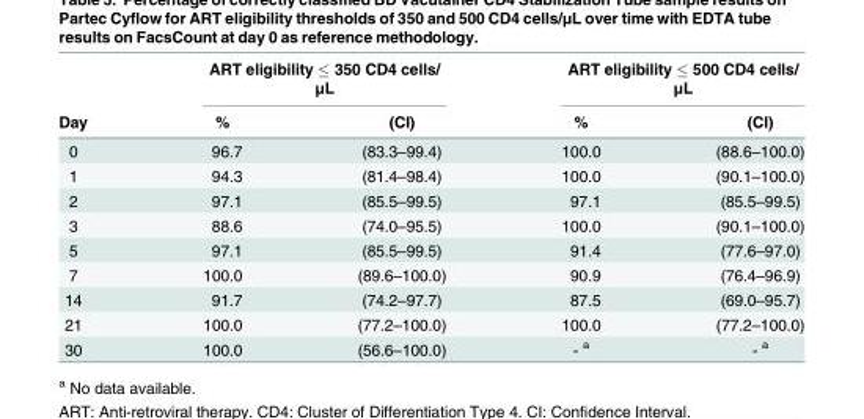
<table><thead><tr><td rowspan="2">Day</td><td colspan="2">ART eligibility ≤ 350 CD4 cells/ μL</td><td colspan="2">ART eligibility ≤ 500 CD4 cells/ μL</td></tr><tr><td>%</td><td>(CI)</td><td>%</td><td>(CI)</td></tr></thead><tbody><tr><td>0</td><td>96.7</td><td>(83.3–99.4)</td><td>100.0</td><td>(88.6–100.0)</td></tr><tr><td>1</td><td>94.3</td><td>(81.4–98.4)</td><td>100.0</td><td>(90.1–100.0)</td></tr><tr><td>2</td><td>97.1</td><td>(85.5–99.5)</td><td>97.1</td><td>(85.5–99.5)</td></tr><tr><td>3</td><td>88.6</td><td>(74.0–95.5)</td><td>100.0</td><td>(90.1–100.0)</td></tr><tr><td>5</td><td>97.1</td><td>(85.5–99.5)</td><td>91.4</td><td>(77.6–97.0)</td></tr><tr><td>7</td><td>100.0</td><td>(89.6–100.0)</td><td>90.9</td><td>(76.4–96.9)</td></tr><tr><td>14</td><td>91.7</td><td>(74.2–97.7)</td><td>87.5</td><td>(69.0–95.7)</td></tr><tr><td>21</td><td>100.0</td><td>(77.2–100.0)</td><td>100.0</td><td>(77.2–100.0)</td></tr><tr><td>30</td><td>100.0</td><td>(56.6–100.0)</td><td>- <sup>a</sup></td><td>- <sup>a</sup></td></tr></tbody></table>